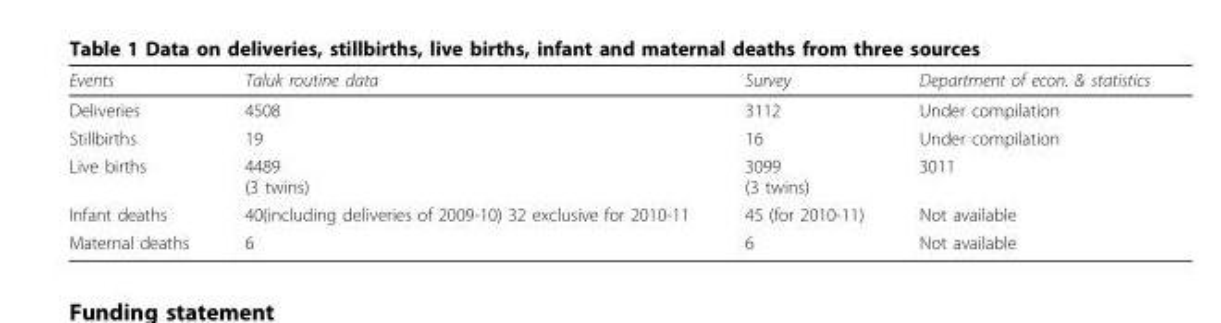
<table><thead><tr><td>Events</td><td>Taluk routine data</td><td>Survey</td><td>Department of econ. &amp; statistics</td></tr></thead><tbody><tr><td>Deliveries</td><td>4508</td><td>3112</td><td>Under compilation</td></tr><tr><td>Stillbirths</td><td>19</td><td>16</td><td>Under compilation</td></tr><tr><td>Live births</td><td>4489 (3 twins)</td><td>3099 (3 twins)</td><td>3011</td></tr><tr><td>Infant deaths</td><td>40(including deliveries of 2009-10) 32 exclusive for 2010-11</td><td>45 (for 2010-11)</td><td>Not available</td></tr><tr><td>Maternal deaths</td><td>6</td><td>6</td><td>Not available</td></tr></tbody></table>